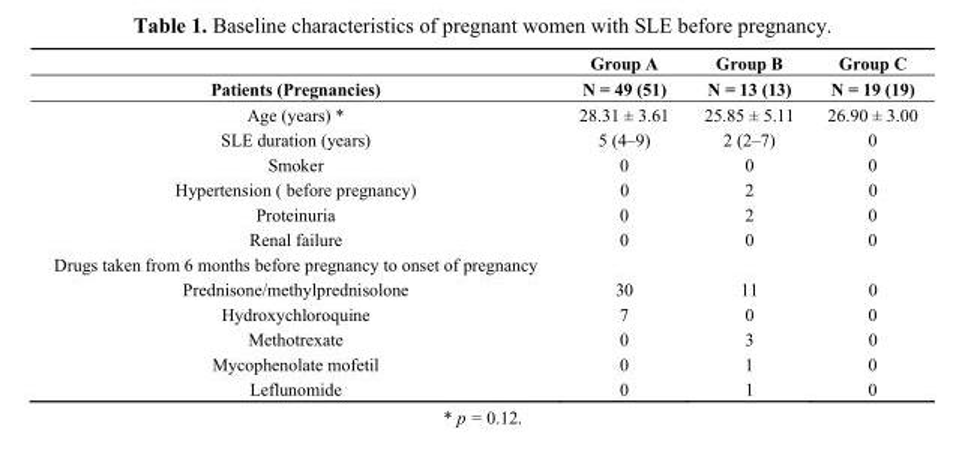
<table><thead><tr><td rowspan="2">Patients (Pregnancies)</td><td rowspan="2">Group A N = 49 (51)</td><td rowspan="2">Group B N = 13 (13)</td><td rowspan="2">Group C N = 19 (19)</td></tr><tr></tr></thead><tbody><tr><td>Age (years) *</td><td>28.31 ± 3.61</td><td>25.85 ± 5.11</td><td>26.90 ± 3.00</td></tr><tr><td>SLE duration (years)</td><td>5 (4–9)</td><td>2 (2–7)</td><td>0</td></tr><tr><td>Smoker</td><td>0</td><td>0</td><td>0</td></tr><tr><td>Hypertension ( before pregnancy)</td><td>0</td><td>2</td><td>0</td></tr><tr><td>Proteinuria</td><td>0</td><td>2</td><td>0</td></tr><tr><td>Renal failure</td><td>0</td><td>0</td><td>0</td></tr><tr><td colspan="4">Drugs taken from 6 months before pregnancy to onset of pregnancy</td></tr><tr><td>Prednisone/methylprednisolone</td><td>30</td><td>11</td><td>0</td></tr><tr><td>Hydroxychloroquine</td><td>7</td><td>0</td><td>0</td></tr><tr><td>Methotrexate</td><td>0</td><td>3</td><td>0</td></tr><tr><td>Mycophenolate mofetil</td><td>0</td><td>1</td><td>0</td></tr><tr><td>Leflunomide</td><td>0</td><td>1</td><td>0</td></tr></tbody></table>